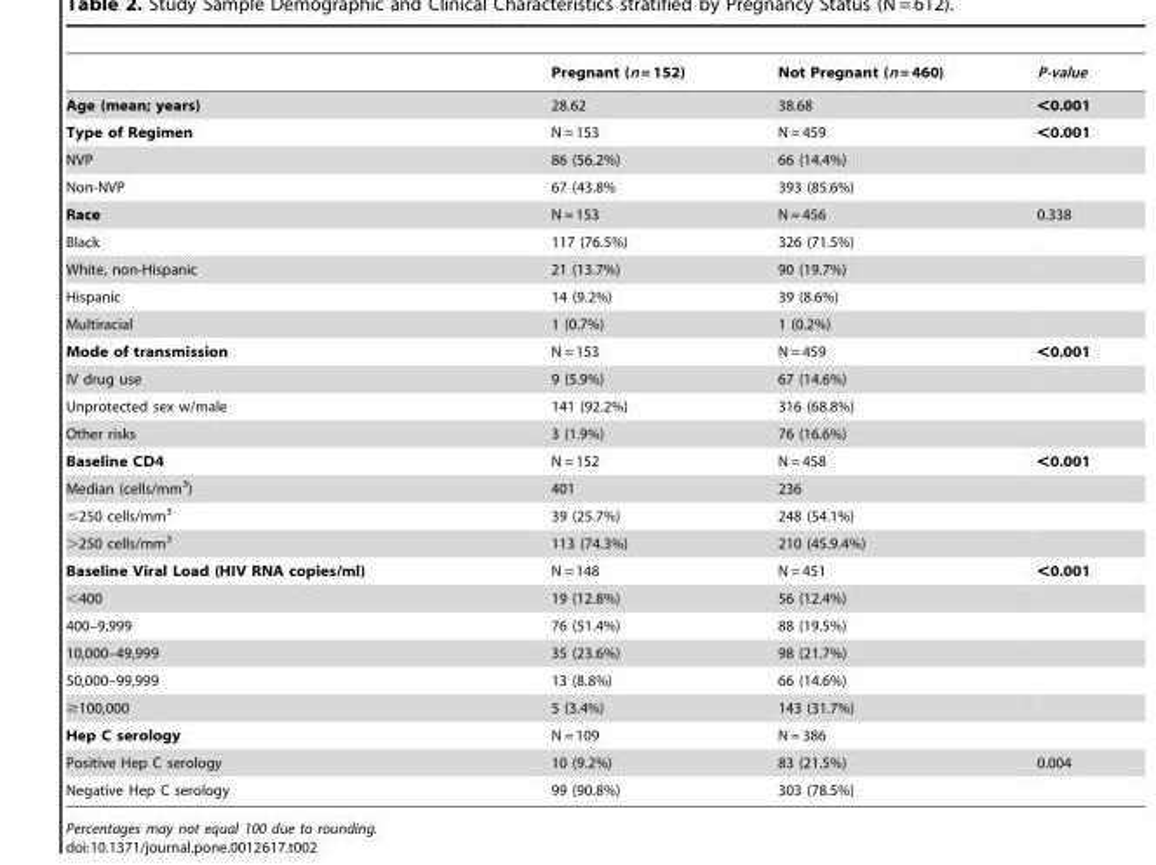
<table><thead><tr><td></td><td>Pregnant (n = 152)</td><td>Not Pregnant (n = 460)</td><td>P-value</td></tr></thead><tbody><tr><td>Age (mean; years)</td><td>28.62</td><td>38.68</td><td>&lt;0.001</td></tr><tr><td>Type of Regimen</td><td>N = 153</td><td>N = 459</td><td>&lt;0.001</td></tr><tr><td>NVP</td><td>86 (56.2%)</td><td>66 (14.4%)</td><td></td></tr><tr><td>Non-NVP</td><td>67 (43.8%</td><td>393 (85.6%)</td><td></td></tr><tr><td>Race</td><td>N = 153</td><td>N = 456</td><td>0.338</td></tr><tr><td>Black</td><td>117 (76.5%)</td><td>326 (71.5%)</td><td></td></tr><tr><td>White, non-Hispanic</td><td>21 (13.7%)</td><td>90 (19.7%)</td><td></td></tr><tr><td>Hispanic</td><td>14 (9.2%)</td><td>39 (8.6%)</td><td></td></tr><tr><td>Multiracial</td><td>1 (0.7%)</td><td>1 (0.2%)</td><td></td></tr><tr><td>Mode of transmission</td><td>N = 153</td><td>N = 459</td><td>&lt;0.001</td></tr><tr><td>IV drug use</td><td>9 (5.9%)</td><td>67 (14.6%)</td><td></td></tr><tr><td>Unprotected sex w/male</td><td>141 (92.2%)</td><td>316 (68.8%)</td><td></td></tr><tr><td>Other risks</td><td>3 (1.9%)</td><td>76 (16.6%)</td><td></td></tr><tr><td>Baseline CD4</td><td>N = 152</td><td>N = 458</td><td>&lt;0.001</td></tr><tr><td>Median (cells/mm<sup>3</sup>)</td><td>401</td><td>236</td><td></td></tr><tr><td>≤250 cells/mm<sup>3</sup></td><td>39 (25.7%)</td><td>248 (54.1%)</td><td></td></tr><tr><td>&gt;250 cells/mm<sup>3</sup></td><td>113 (74.3%)</td><td>210 (45.9.4%)</td><td></td></tr><tr><td>Baseline Viral Load (HIV RNA copies/ml)</td><td>N = 148</td><td>N = 451</td><td>&lt;0.001</td></tr><tr><td>&lt;400</td><td>19 (12.8%)</td><td>56 (12.4%)</td><td></td></tr><tr><td>400–9,999</td><td>76 (51.4%)</td><td>88 (19.5%)</td><td></td></tr><tr><td>10,000–49,999</td><td>35 (23.6%)</td><td>98 (21.7%)</td><td></td></tr><tr><td>50,000–99,999</td><td>13 (8.8%)</td><td>66 (14.6%)</td><td></td></tr><tr><td>≥100,000</td><td>5 (3.4%)</td><td>143 (31.7%)</td><td></td></tr><tr><td>Hep C serology</td><td>N = 109</td><td>N = 386</td><td></td></tr><tr><td>Positive Hep C serology</td><td>10 (9.2%)</td><td>83 (21.5%)</td><td>0.004</td></tr><tr><td>Negative Hep C serology</td><td>99 (90.8%)</td><td>303 (78.5%)</td><td></td></tr></tbody></table>